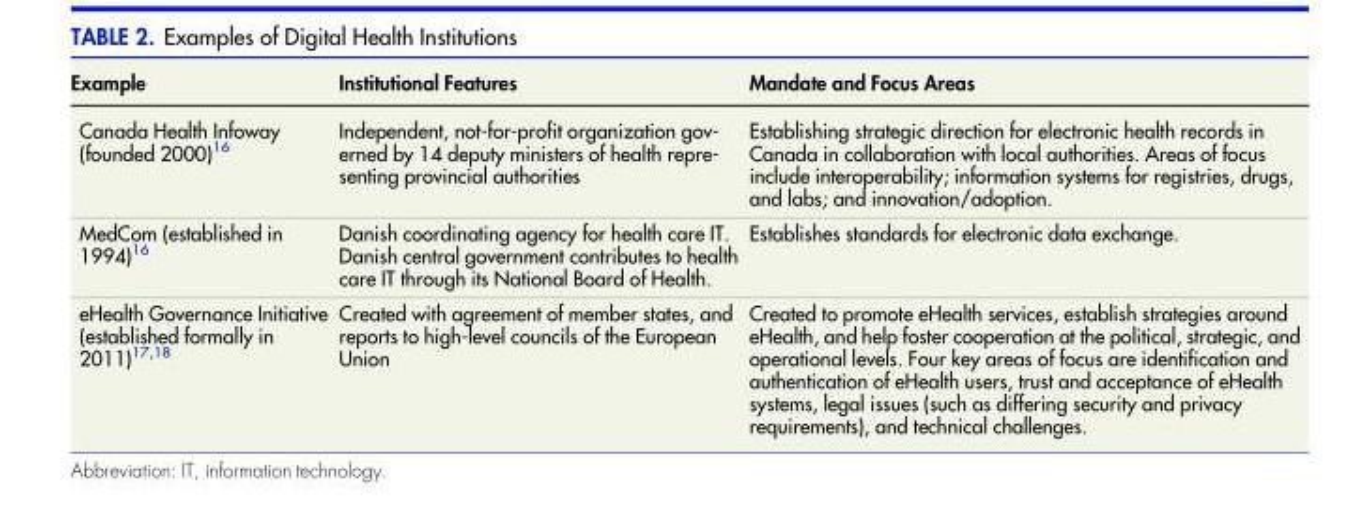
<table><thead><tr><td>Example</td><td>Institutional Features</td><td>Mandate and Focus Areas</td></tr></thead><tbody><tr><td>Canada Health Infoway (founded 2000)<sup>16</sup></td><td>Independent, not-for-profit organization gov- erned by 14 deputy ministers of health repre- senting provincial authorities</td><td>Establishing strategic direction for electronic health records in Canada in collaboration with local authorities. Areas of focus include interoperability; information systems for registries, drugs, and labs; and innovation/adoption.</td></tr><tr><td>MedCom (established in 1994)<sup>16</sup></td><td>Danish coordinating agency for health care IT. Danish central government contributes to health care IT through its National Board of Health.</td><td>Establishes standards for electronic data exchange.</td></tr><tr><td>eHealth Governance Initiative (established formally in 2011)<sup>17,18</sup></td><td>Created with agreement of member states, and reports to high-level councils of the European Union</td><td>Created to promote eHealth services, establish strategies around eHealth, and help foster cooperation at the political, strategic, and operational levels. Four key areas of focus are identification and authentication of eHealth users, trust and acceptance of eHealth systems, legal issues (such as differing security and privacy requirements), and technical challenges.</td></tr></tbody></table>